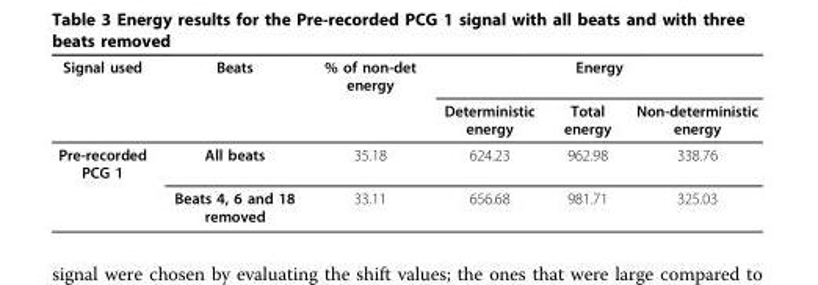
<table><thead><tr><td rowspan="2">Signal used</td><td rowspan="2">Beats</td><td rowspan="2">% of non-det energy</td><td colspan="3">Energy</td></tr><tr><td>Deterministic energy</td><td>Total energy</td><td>Non-deterministic energy</td></tr></thead><tbody><tr><td rowspan="2">Pre-recorded PCG 1</td><td>All beats</td><td>35.18</td><td>624.23</td><td>962.98</td><td>338.76</td></tr><tr><td>Beats 4, 6 and 18 removed</td><td>33.11</td><td>656.68</td><td>981.71</td><td>325.03</td></tr></tbody></table>